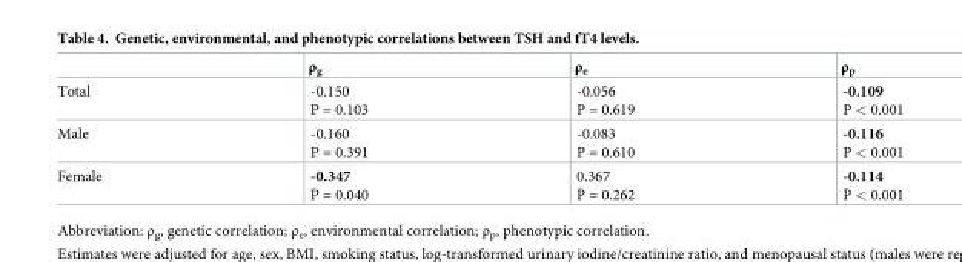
<table><thead><tr><td></td><td>ρ<sub>g</sub></td><td>ρ<sub>e</sub></td><td>ρ<sub>p</sub></td></tr></thead><tbody><tr><td>Total</td><td>-0.150 P = 0.103</td><td>-0.056 P = 0.619</td><td>-0.109 P &lt; 0.001</td></tr><tr><td>Male</td><td>-0.160 P = 0.391</td><td>-0.083 P = 0.610</td><td>-0.116 P &lt; 0.001</td></tr><tr><td>Female</td><td>-0.347 P = 0.040</td><td>0.367 P = 0.262</td><td>-0.114 P &lt; 0.001</td></tr></tbody></table>